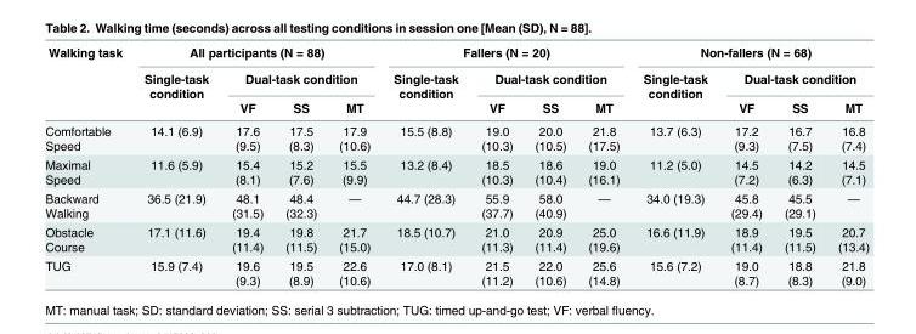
<table><thead><tr><td rowspan="3">Walking task</td><td colspan="4">All participants (N = 88)</td><td colspan="4">Fallers (N = 20)</td><td colspan="4">Non-fallers (N = 68)</td></tr><tr><td rowspan="2">Single-task condition</td><td colspan="3">Dual-task condition</td><td rowspan="2">Single-task condition</td><td colspan="3">Dual-task condition</td><td rowspan="2">Single-task condition</td><td colspan="3">Dual-task condition</td></tr><tr><td>VF</td><td>SS</td><td>MT</td><td>VF</td><td>SS</td><td>MT</td><td>VF</td><td>SS</td><td>MT</td></tr></thead><tbody><tr><td>Comfortable Speed</td><td>14.1 (6.9)</td><td>17.6 (9.5)</td><td>17.5 (8.3)</td><td>17.9 (10.6)</td><td>15.5 (8.8)</td><td>19.0 (10.3)</td><td>20.0 (10.5)</td><td>21.8 (17.5)</td><td>13.7 (6.3)</td><td>17.2 (9.3)</td><td>16.7 (7.5)</td><td>16.8 (7.4)</td></tr><tr><td>Maximal Speed</td><td>11.6 (5.9)</td><td>15.4 (8.1)</td><td>15.2 (7.6)</td><td>15.5 (9.9)</td><td>13.2 (8.4)</td><td>18.5 (10.3)</td><td>18.6 (10.4)</td><td>19.0 (16.1)</td><td>11.2 (5.0)</td><td>14.5 (7.2)</td><td>14.2 (6.3)</td><td>14.5 (7.1)</td></tr><tr><td>Backward Walking</td><td>36.5 (21.9)</td><td>48.1 (31.5)</td><td>48.4 (32.3)</td><td>—</td><td>44.7 (28.3)</td><td>55.9 (37.7)</td><td>58.0 (40.9)</td><td>—</td><td>34.0 (19.3)</td><td>45.8 (29.4)</td><td>45.5 (29.1)</td><td>—</td></tr><tr><td>Obstacle Course</td><td>17.1 (11.6)</td><td>19.4 (11.4)</td><td>19.8 (11.5)</td><td>21.7 (15.0)</td><td>18.5 (10.7)</td><td>21.0 (11.3)</td><td>20.9 (11.4)</td><td>25.0 (19.6)</td><td>16.6 (11.9)</td><td>18.9 (11.4)</td><td>19.5 (11.5)</td><td>20.7 (13.4)</td></tr><tr><td>TUG</td><td>15.9 (7.4)</td><td>19.6 (9.3)</td><td>19.5 (8.9)</td><td>22.6 (10.6)</td><td>17.0 (8.1)</td><td>21.5 (11.2)</td><td>22.0 (10.6)</td><td>25.6 (14.8)</td><td>15.6 (7.2)</td><td>19.0 (8.7)</td><td>18.8 (8.3)</td><td>21.8 (9.0)</td></tr></tbody></table>